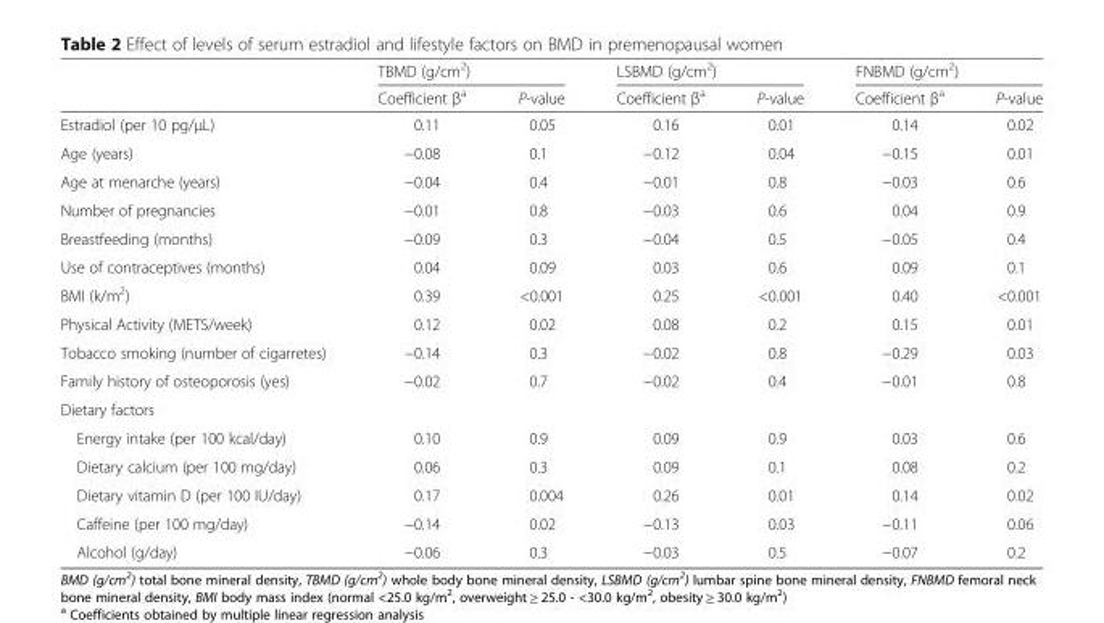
<table><thead><tr><td rowspan="2"></td><td colspan="2">TBMD (g/cm<sup>2</sup>)</td><td colspan="2">LSBMD (g/cm<sup>2</sup>)</td><td colspan="2">FNBMD (g/cm<sup>2</sup>)</td></tr><tr><td>Coefficient β<sup>a</sup></td><td>P-value</td><td>Coefficient β<sup>a</sup></td><td>P-value</td><td>Coefficient β<sup>a</sup></td><td>P-value</td></tr></thead><tbody><tr><td>Estradiol (per 10 pg/μL)</td><td>0.11</td><td>0.05</td><td>0.16</td><td>0.01</td><td>0.14</td><td>0.02</td></tr><tr><td>Age (years)</td><td>−0.08</td><td>0.1</td><td>−0.12</td><td>0.04</td><td>−0.15</td><td>0.01</td></tr><tr><td>Age at menarche (years)</td><td>−0.04</td><td>0.4</td><td>−0.01</td><td>0.8</td><td>−0.03</td><td>0.6</td></tr><tr><td>Number of pregnancies</td><td>−0.01</td><td>0.8</td><td>−0.03</td><td>0.6</td><td>0.04</td><td>0.9</td></tr><tr><td>Breastfeeding (months)</td><td>−0.09</td><td>0.3</td><td>−0.04</td><td>0.5</td><td>−0.05</td><td>0.4</td></tr><tr><td>Use of contraceptives (months)</td><td>0.04</td><td>0.09</td><td>0.03</td><td>0.6</td><td>0.09</td><td>0.1</td></tr><tr><td>BMI (k/m<sup>2</sup>)</td><td>0.39</td><td>&lt;0.001</td><td>0.25</td><td>&lt;0.001</td><td>0.40</td><td>&lt;0.001</td></tr><tr><td>Physical Activity (METS/week)</td><td>0.12</td><td>0.02</td><td>0.08</td><td>0.2</td><td>0.15</td><td>0.01</td></tr><tr><td>Tobacco smoking (number of cigarretes)</td><td>−0.14</td><td>0.3</td><td>−0.02</td><td>0.8</td><td>−0.29</td><td>0.03</td></tr><tr><td>Family history of osteoporosis (yes)</td><td>−0.02</td><td>0.7</td><td>−0.02</td><td>0.4</td><td>−0.01</td><td>0.8</td></tr><tr><td colspan="7">Dietary factors</td></tr><tr><td>Energy intake (per 100 kcal/day)</td><td>0.10</td><td>0.9</td><td>0.09</td><td>0.9</td><td>0.03</td><td>0.6</td></tr><tr><td>Dietary calcium (per 100 mg/day)</td><td>0.06</td><td>0.3</td><td>0.09</td><td>0.1</td><td>0.08</td><td>0.2</td></tr><tr><td>Dietary vitamin D (per 100 IU/day)</td><td>0.17</td><td>0.004</td><td>0.26</td><td>0.01</td><td>0.14</td><td>0.02</td></tr><tr><td>Caffeine (per 100 mg/day)</td><td>−0.14</td><td>0.02</td><td>−0.13</td><td>0.03</td><td>−0.11</td><td>0.06</td></tr><tr><td>Alcohol (g/day)</td><td>−0.06</td><td>0.3</td><td>−0.03</td><td>0.5</td><td>−0.07</td><td>0.2</td></tr></tbody></table>